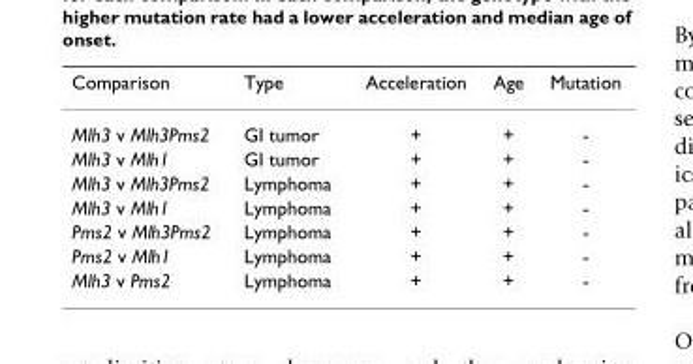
<table><thead><tr><td>Comparison</td><td>Type</td><td>Acceleration</td><td>Age</td><td>Mutation</td></tr></thead><tbody><tr><td>Mlh3 v Mlh3Pms2</td><td>GI tumor</td><td>+</td><td>+</td><td>-</td></tr><tr><td>Mlh3 v Mlh1</td><td>GI tumor</td><td>+</td><td>+</td><td>-</td></tr><tr><td>Mlh3 v Mlh3Pms2</td><td>Lymphoma</td><td>+</td><td>+</td><td>-</td></tr><tr><td>Mlh3 v Mlh1</td><td>Lymphoma</td><td>+</td><td>+</td><td>-</td></tr><tr><td>Pms2 v Mlh3Pms2</td><td>Lymphoma</td><td>+</td><td>+</td><td>-</td></tr><tr><td>Pms2 v Mlh1</td><td>Lymphoma</td><td>+</td><td>+</td><td>-</td></tr><tr><td>Mlh3 v Pms2</td><td>Lymphoma</td><td>+</td><td>+</td><td>-</td></tr></tbody></table>